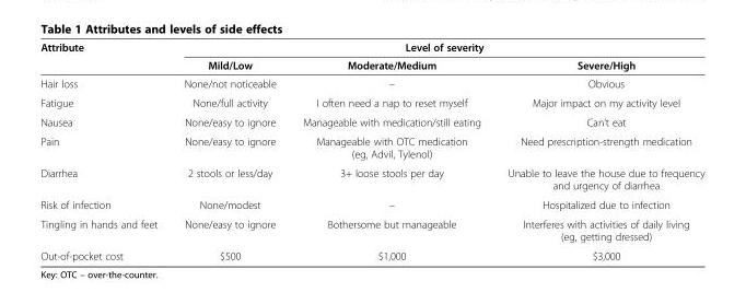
<table><thead><tr><td rowspan="2">Attribute</td><td colspan="3">Level of severity</td></tr><tr><td>Mild/Low</td><td>Moderate/Medium</td><td>Severe/High</td></tr></thead><tbody><tr><td>Hair loss</td><td>None/not noticeable</td><td>–</td><td>Obvious</td></tr><tr><td>Fatigue</td><td>None/full activity</td><td>I often need a nap to reset myself</td><td>Major impact on my activity level</td></tr><tr><td>Nausea</td><td>None/easy to ignore</td><td>Manageable with medication/still eating</td><td>Can’t eat</td></tr><tr><td>Pain</td><td>None/easy to ignore</td><td>Manageable with OTC medication (eg, Advil, Tylenol)</td><td>Need prescription-strength medication</td></tr><tr><td>Diarrhea</td><td>2 stools or less/day</td><td>3+ loose stools per day</td><td>Unable to leave the house due to frequency and urgency of diarrhea</td></tr><tr><td>Risk of infection</td><td>None/modest</td><td>–</td><td>Hospitalized due to infection</td></tr><tr><td>Tingling in hands and feet</td><td>None/easy to ignore</td><td>Bothersome but manageable</td><td>Interferes with activities of daily living (eg, getting dressed)</td></tr><tr><td>Out-of-pocket cost</td><td>$500</td><td>$1,000</td><td>$3,000</td></tr></tbody></table>